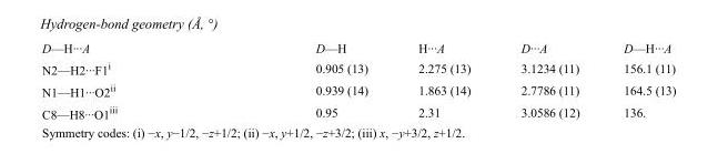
<table><tbody><tr><td>D—H···A</td><td>D—H</td><td>H···A</td><td>D···A</td><td>D—H···A</td></tr><tr><td>N2—H2···F1<sup>i</sup></td><td>0.905 (13)</td><td>2.275 (13)</td><td>3.1234 (11)</td><td>156.1 (11)</td></tr><tr><td>N1—H1···O2<sup>ii</sup></td><td>0.939 (14)</td><td>1.863 (14)</td><td>2.7786 (11)</td><td>164.5 (13)</td></tr><tr><td>C8—H8···O1<sup>iii</sup></td><td>0.95</td><td>2.31</td><td>3.0586 (12)</td><td>136.</td></tr></tbody></table>